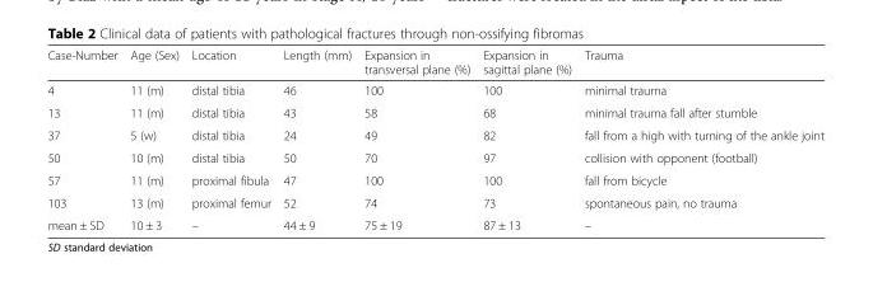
<table><thead><tr><td>Case-Number</td><td>Age (Sex)</td><td>Location</td><td>Length (mm)</td><td>Expansion in transversal plane (%)</td><td>Expansion in sagittal plane (%)</td><td>Trauma</td></tr></thead><tbody><tr><td>4</td><td>11 (m)</td><td>distal tibia</td><td>46</td><td>100</td><td>100</td><td>minimal trauma</td></tr><tr><td>13</td><td>11 (m)</td><td>distal tibia</td><td>43</td><td>58</td><td>68</td><td>minimal trauma fall after stumble</td></tr><tr><td>37</td><td>5 (w)</td><td>distal tibia</td><td>24</td><td>49</td><td>82</td><td>fall from a high with turning of the ankle joint</td></tr><tr><td>50</td><td>10 (m)</td><td>distal tibia</td><td>50</td><td>70</td><td>97</td><td>collision with opponent (football)</td></tr><tr><td>57</td><td>11 (m)</td><td>proximal fibula</td><td>47</td><td>100</td><td>100</td><td>fall from bicycle</td></tr><tr><td>103</td><td>13 (m)</td><td>proximal femur</td><td>52</td><td>74</td><td>73</td><td>spontaneous pain, no trauma</td></tr><tr><td>mean ± SD</td><td>10 ± 3</td><td>–</td><td>44 ± 9</td><td>75 ± 19</td><td>87 ± 13</td><td>–</td></tr></tbody></table>